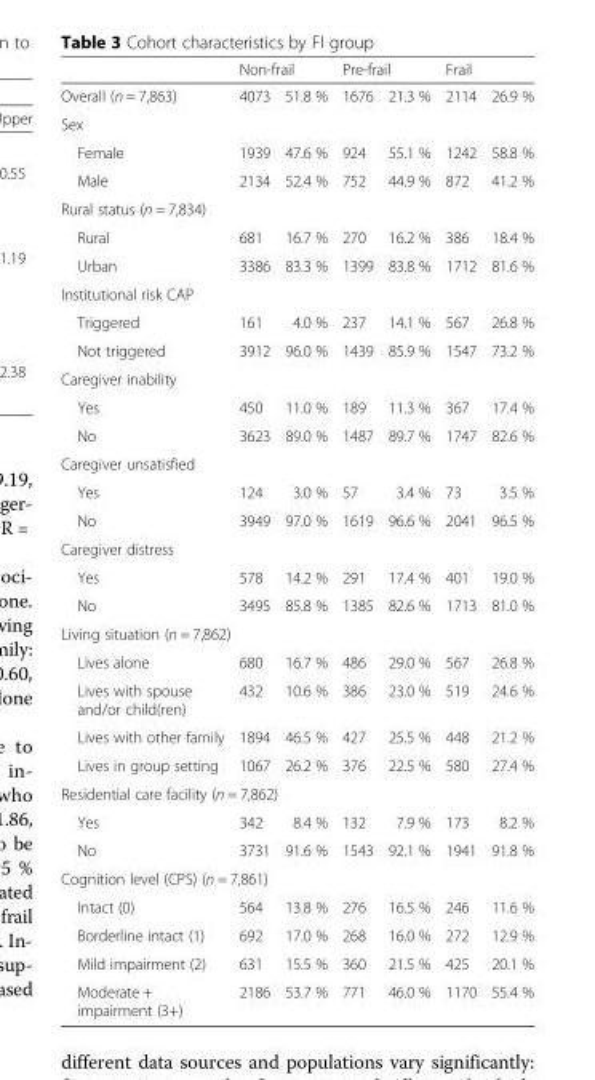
<table><thead><tr><td rowspan="2">Overall (n = 7,863)</td><td colspan="2">Non-frail</td><td colspan="2">Pre-frail</td><td colspan="2">Frail</td></tr><tr><td>4073</td><td>51.8 %</td><td>1676</td><td>21.3 %</td><td>2114</td><td>26.9 %</td></tr></thead><tbody><tr><td colspan="7">Sex</td></tr><tr><td>Female</td><td>1939</td><td>47.6 %</td><td>924</td><td>55.1 %</td><td>1242</td><td>58.8 %</td></tr><tr><td>Male</td><td>2134</td><td>52.4 %</td><td>752</td><td>44.9 %</td><td>872</td><td>41.2 %</td></tr><tr><td colspan="7">Rural status (n = 7,834)</td></tr><tr><td>Rural</td><td>681</td><td>16.7 %</td><td>270</td><td>16.2 %</td><td>386</td><td>18.4 %</td></tr><tr><td>Urban</td><td>3386</td><td>83.3 %</td><td>1399</td><td>83.8 %</td><td>1712</td><td>81.6 %</td></tr><tr><td colspan="7">Institutional risk CAP</td></tr><tr><td>Triggered</td><td>161</td><td>4.0 %</td><td>237</td><td>14.1 %</td><td>567</td><td>26.8 %</td></tr><tr><td>Not triggered</td><td>3912</td><td>96.0 %</td><td>1439</td><td>85.9 %</td><td>1547</td><td>73.2 %</td></tr><tr><td colspan="7">Caregiver inability</td></tr><tr><td>Yes</td><td>450</td><td>11.0 %</td><td>189</td><td>11.3 %</td><td>367</td><td>17.4 %</td></tr><tr><td>No</td><td>3623</td><td>89.0 %</td><td>1487</td><td>89.7 %</td><td>1747</td><td>82.6 %</td></tr><tr><td colspan="7">Caregiver unsatisfied</td></tr><tr><td>Yes</td><td>124</td><td>3.0 %</td><td>57</td><td>3.4 %</td><td>73</td><td>3.5 %</td></tr><tr><td>No</td><td>3949</td><td>97.0 %</td><td>1619</td><td>96.6 %</td><td>2041</td><td>96.5 %</td></tr><tr><td colspan="7">Caregiver distress</td></tr><tr><td>Yes</td><td>578</td><td>14.2 %</td><td>291</td><td>17.4 %</td><td>401</td><td>19.0 %</td></tr><tr><td>No</td><td>3495</td><td>85.8 %</td><td>1385</td><td>82.6 %</td><td>1713</td><td>81.0 %</td></tr><tr><td colspan="7">Living situation (n = 7,862)</td></tr><tr><td>Lives alone</td><td>680</td><td>16.7 %</td><td>486</td><td>29.0 %</td><td>567</td><td>26.8 %</td></tr><tr><td>Lives with spouse and/or child(ren)</td><td>432</td><td>10.6 %</td><td>386</td><td>23.0 %</td><td>519</td><td>24.6 %</td></tr><tr><td>Lives with other family</td><td>1894</td><td>46.5 %</td><td>427</td><td>25.5 %</td><td>448</td><td>21.2 %</td></tr><tr><td>Lives in group setting</td><td>1067</td><td>26.2 %</td><td>376</td><td>22.5 %</td><td>580</td><td>27.4 %</td></tr><tr><td colspan="7">Residential care facility (n = 7,862)</td></tr><tr><td>Yes</td><td>342</td><td>8.4 %</td><td>132</td><td>7.9 %</td><td>173</td><td>8.2 %</td></tr><tr><td>No</td><td>3731</td><td>91.6 %</td><td>1543</td><td>92.1 %</td><td>1941</td><td>91.8 %</td></tr><tr><td colspan="7">Cognition level (CPS) (n = 7,861)</td></tr><tr><td>Intact (0)</td><td>564</td><td>13.8 %</td><td>276</td><td>16.5 %</td><td>246</td><td>11.6 %</td></tr><tr><td>Borderline intact (1)</td><td>692</td><td>17.0 %</td><td>268</td><td>16.0 %</td><td>272</td><td>12.9 %</td></tr><tr><td>Mild impairment (2)</td><td>631</td><td>15.5 %</td><td>360</td><td>21.5 %</td><td>425</td><td>20.1 %</td></tr><tr><td>Moderate + impairment (3+)</td><td>2186</td><td>53.7 %</td><td>771</td><td>46.0 %</td><td>1170</td><td>55.4 %</td></tr></tbody></table>